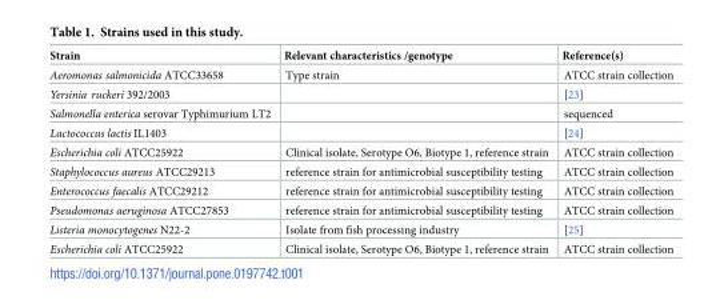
<table><thead><tr><td>Strain</td><td>Relevant characteristics /genotype</td><td>Reference(s)</td></tr></thead><tbody><tr><td>Aeromonas salmonicida ATCC33658</td><td>Type strain</td><td>ATCC strain collection</td></tr><tr><td>Yersinia ruckeri 392/2003</td><td></td><td>[23]</td></tr><tr><td>Salmonella enterica serovar Typhimurium LT2</td><td></td><td>sequenced</td></tr><tr><td>Lactococcus lactis IL1403</td><td></td><td>[24]</td></tr><tr><td>Escherichia coli ATCC25922</td><td>Clinical isolate, Serotype O6, Biotype 1, reference strain</td><td>ATCC strain collection</td></tr><tr><td>Staphylococcus aureus ATCC29213</td><td>reference strain for antimicrobial susceptibility testing</td><td>ATCC strain collection</td></tr><tr><td>Enterococcus faecalis ATCC29212</td><td>reference strain for antimicrobial susceptibility testing</td><td>ATCC strain collection</td></tr><tr><td>Pseudomonas aeruginosa ATCC27853</td><td>reference strain for antimicrobial susceptibility testing</td><td>ATCC strain collection</td></tr><tr><td>Listeria monocytogenes N22-2</td><td>Isolate from fish processing industry</td><td>[25]</td></tr><tr><td>Escherichia coli ATCC25922</td><td>Clinical isolate, Serotype O6, Biotype 1, reference strain</td><td>ATCC strain collection</td></tr></tbody></table>